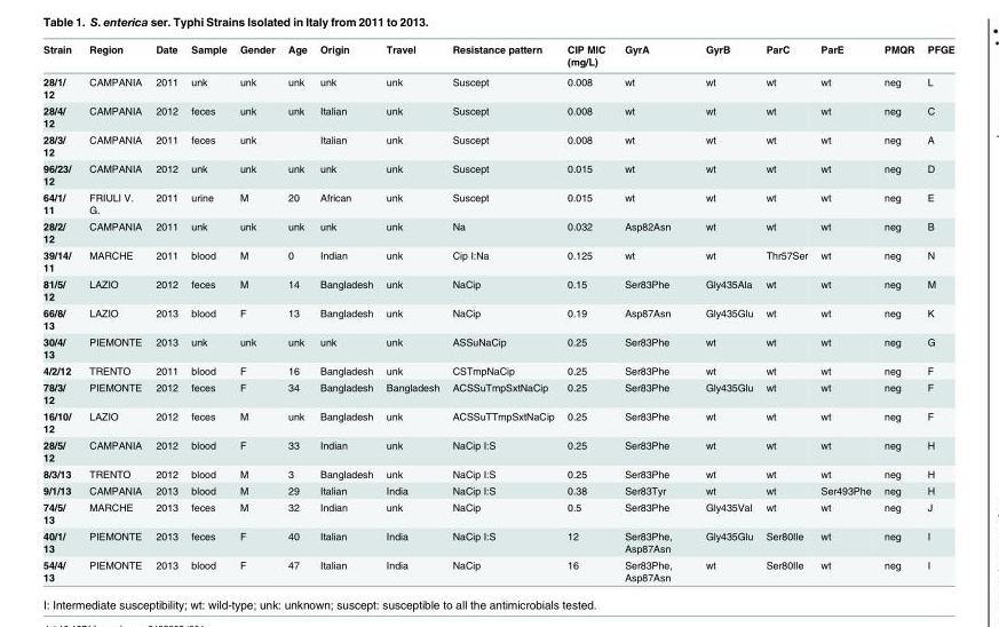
<table><thead><tr><td>Strain</td><td>Region</td><td>Date</td><td>Sample</td><td>Gender</td><td>Age</td><td>Origin</td><td>Travel</td><td>Resistance pattern</td><td>CIP MIC (mg/L)</td><td>GyrA</td><td>GyrB</td><td>ParC</td><td>ParE</td><td>PMQR</td><td>PFGE</td></tr></thead><tbody><tr><td>28/1/ 12</td><td>CAMPANIA</td><td>2011</td><td>unk</td><td>unk</td><td>unk</td><td>unk</td><td>unk</td><td>Suscept</td><td>0.008</td><td>wt</td><td>wt</td><td>wt</td><td>wt</td><td>neg</td><td>L</td></tr><tr><td>28/4/ 12</td><td>CAMPANIA</td><td>2012</td><td>feces</td><td>unk</td><td>unk</td><td>Italian</td><td>unk</td><td>Suscept</td><td>0.008</td><td>wt</td><td>wt</td><td>wt</td><td>wt</td><td>neg</td><td>C</td></tr><tr><td>28/3/ 12</td><td>CAMPANIA</td><td>2011</td><td>feces</td><td>unk</td><td></td><td>Italian</td><td>unk</td><td>Suscept</td><td>0.008</td><td>wt</td><td>wt</td><td>wt</td><td>wt</td><td>neg</td><td>A</td></tr><tr><td>96/23/ 12</td><td>CAMPANIA</td><td>2012</td><td>unk</td><td>unk</td><td>unk</td><td>unk</td><td>unk</td><td>Suscept</td><td>0.015</td><td>wt</td><td>wt</td><td>wt</td><td>wt</td><td>neg</td><td>D</td></tr><tr><td>64/1/ 11</td><td>FRIULI V. G.</td><td>2011</td><td>urine</td><td>M</td><td>20</td><td>African</td><td>unk</td><td>Suscept</td><td>0.015</td><td>wt</td><td>wt</td><td>wt</td><td>wt</td><td>neg</td><td>E</td></tr><tr><td>28/2/ 12</td><td>CAMPANIA</td><td>2011</td><td>unk</td><td>unk</td><td>unk</td><td>unk</td><td>unk</td><td>Na</td><td>0.032</td><td>Asp82Asn</td><td>wt</td><td>wt</td><td>wt</td><td>neg</td><td>B</td></tr><tr><td>39/14/ 11</td><td>MARCHE</td><td>2011</td><td>blood</td><td>M</td><td>0</td><td>Indian</td><td>unk</td><td>Cip I:Na</td><td>0.125</td><td>wt</td><td>wt</td><td>Thr57Ser</td><td>wt</td><td>neg</td><td>N</td></tr><tr><td>81/5/ 12</td><td>LAZIO</td><td>2012</td><td>feces</td><td>M</td><td>14</td><td>Bangladesh</td><td>unk</td><td>NaCip</td><td>0.15</td><td>Ser83Phe</td><td>Gly435Ala</td><td>wt</td><td>wt</td><td>neg</td><td>M</td></tr><tr><td>66/8/ 13</td><td>LAZIO</td><td>2013</td><td>blood</td><td>F</td><td>13</td><td>Bangladesh</td><td>unk</td><td>NaCip</td><td>0.19</td><td>Asp87Asn</td><td>Gly435Glu</td><td>wt</td><td>wt</td><td>neg</td><td>K</td></tr><tr><td>30/4/ 13</td><td>PIEMONTE</td><td>2013</td><td>unk</td><td>unk</td><td>unk</td><td>unk</td><td>unk</td><td>ASSuNaCip</td><td>0.25</td><td>Ser83Phe</td><td>wt</td><td>wt</td><td>wt</td><td>neg</td><td>G</td></tr><tr><td>4/2/12</td><td>TRENTO</td><td>2011</td><td>blood</td><td>F</td><td>16</td><td>Bangladesh</td><td>unk</td><td>CSTmpNaCip</td><td>0.25</td><td>Ser83Phe</td><td>wt</td><td>wt</td><td>wt</td><td>neg</td><td>F</td></tr><tr><td>78/3/ 12</td><td>PIEMONTE</td><td>2012</td><td>feces</td><td>F</td><td>34</td><td>Bangladesh</td><td>Bangladesh</td><td>ACSSuTmpSxtNaCip</td><td>0.25</td><td>Ser83Phe</td><td>Gly435Glu</td><td>wt</td><td>wt</td><td>neg</td><td>F</td></tr><tr><td>16/10/ 12</td><td>LAZIO</td><td>2012</td><td>feces</td><td>M</td><td>unk</td><td>Bangladesh</td><td>unk</td><td>ACSSuTTmpSxtNaCip</td><td>0.25</td><td>Ser83Phe</td><td>wt</td><td>wt</td><td>wt</td><td>neg</td><td>F</td></tr><tr><td>28/5/ 12</td><td>CAMPANIA</td><td>2012</td><td>blood</td><td>F</td><td>33</td><td>Indian</td><td>unk</td><td>NaCip I:S</td><td>0.25</td><td>Ser83Phe</td><td>wt</td><td>wt</td><td>wt</td><td>neg</td><td>H</td></tr><tr><td>8/3/13</td><td>TRENTO</td><td>2012</td><td>blood</td><td>M</td><td>3</td><td>Bangladesh</td><td>unk</td><td>NaCip I:S</td><td>0.25</td><td>Ser83Phe</td><td>wt</td><td>wt</td><td>wt</td><td>neg</td><td>H</td></tr><tr><td>9/1/13</td><td>CAMPANIA</td><td>2013</td><td>blood</td><td>M</td><td>29</td><td>Italian</td><td>India</td><td>NaCip I:S</td><td>0.38</td><td>Ser83Tyr</td><td>wt</td><td>wt</td><td>Ser493Phe</td><td>neg</td><td>H</td></tr><tr><td>74/5/ 13</td><td>MARCHE</td><td>2013</td><td>feces</td><td>M</td><td>32</td><td>Indian</td><td>unk</td><td>NaCip</td><td>0.5</td><td>Ser83Phe</td><td>Gly435Val</td><td>wt</td><td>wt</td><td>neg</td><td>J</td></tr><tr><td>40/1/ 13</td><td>PIEMONTE</td><td>2013</td><td>feces</td><td>F</td><td>40</td><td>Italian</td><td>India</td><td>NaCip I:S</td><td>12</td><td>Ser83Phe, Asp87Asn</td><td>Gly435Glu</td><td>Ser80Ile</td><td>wt</td><td>neg</td><td>I</td></tr><tr><td>54/4/ 13</td><td>PIEMONTE</td><td>2013</td><td>blood</td><td>F</td><td>47</td><td>Italian</td><td>India</td><td>NaCip</td><td>16</td><td>Ser83Phe, Asp87Asn</td><td>wt</td><td>Ser80Ile</td><td>wt</td><td>neg</td><td>I</td></tr></tbody></table>